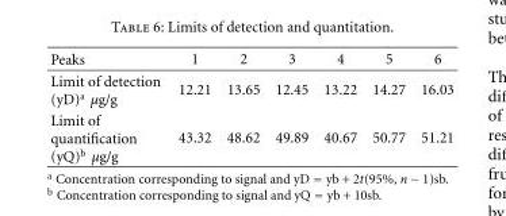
<table><thead><tr><td>Peaks</td><td>1</td><td>2</td><td>3</td><td>4</td><td>5</td><td>6</td></tr></thead><tbody><tr><td>Limit of detection (yD)<sup>a</sup> μg/g</td><td>12.21</td><td>13.65</td><td>12.45</td><td>13.22</td><td>14.27</td><td>16.03</td></tr><tr><td>Limit of quantification (yQ)<sup>b</sup> μg/g</td><td>43.32</td><td>48.62</td><td>49.89</td><td>40.67</td><td>50.77</td><td>51.21</td></tr></tbody></table>